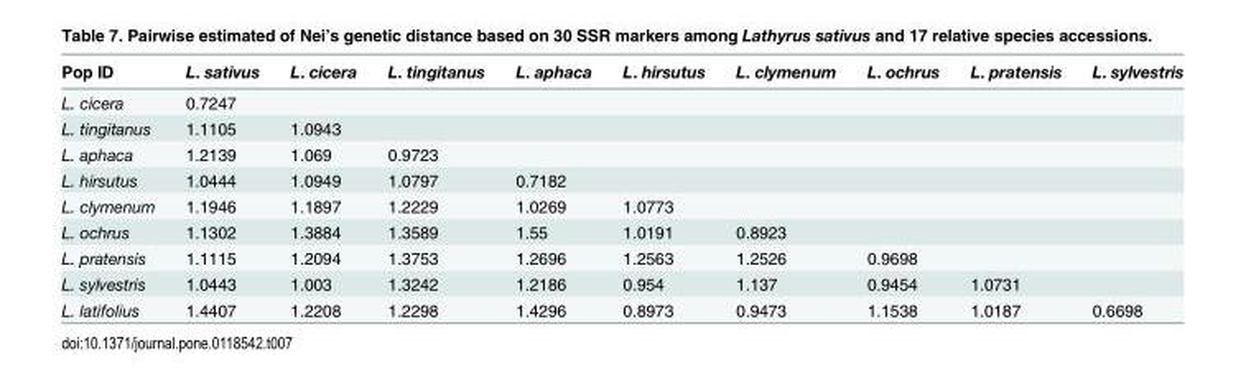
<table><thead><tr><td>Pop ID</td><td>L. sativus</td><td>L. cicera</td><td>L. tingitanus</td><td>L. aphaca</td><td>L. hirsutus</td><td>L. clymenum</td><td>L. ochrus</td><td>L. pratensis</td><td>L. sylvestris</td></tr></thead><tbody><tr><td>L. cicera</td><td>0.7247</td><td></td><td></td><td></td><td></td><td></td><td></td><td></td><td></td></tr><tr><td>L. tingitanus</td><td>1.1105</td><td>1.0943</td><td></td><td></td><td></td><td></td><td></td><td></td><td></td></tr><tr><td>L. aphaca</td><td>1.2139</td><td>1.069</td><td>0.9723</td><td></td><td></td><td></td><td></td><td></td><td></td></tr><tr><td>L. hirsutus</td><td>1.0444</td><td>1.0949</td><td>1.0797</td><td>0.7182</td><td></td><td></td><td></td><td></td><td></td></tr><tr><td>L. clymenum</td><td>1.1946</td><td>1.1897</td><td>1.2229</td><td>1.0269</td><td>1.0773</td><td></td><td></td><td></td><td></td></tr><tr><td>L. ochrus</td><td>1.1302</td><td>1.3884</td><td>1.3589</td><td>1.55</td><td>1.0191</td><td>0.8923</td><td></td><td></td><td></td></tr><tr><td>L. pratensis</td><td>1.1115</td><td>1.2094</td><td>1.3753</td><td>1.2696</td><td>1.2563</td><td>1.2526</td><td>0.9698</td><td></td><td></td></tr><tr><td>L. sylvestris</td><td>1.0443</td><td>1.003</td><td>1.3242</td><td>1.2186</td><td>0.954</td><td>1.137</td><td>0.9454</td><td>1.0731</td><td></td></tr><tr><td>L. latifolius</td><td>1.4407</td><td>1.2208</td><td>1.2298</td><td>1.4296</td><td>0.8973</td><td>0.9473</td><td>1.1538</td><td>1.0187</td><td>0.6698</td></tr></tbody></table>